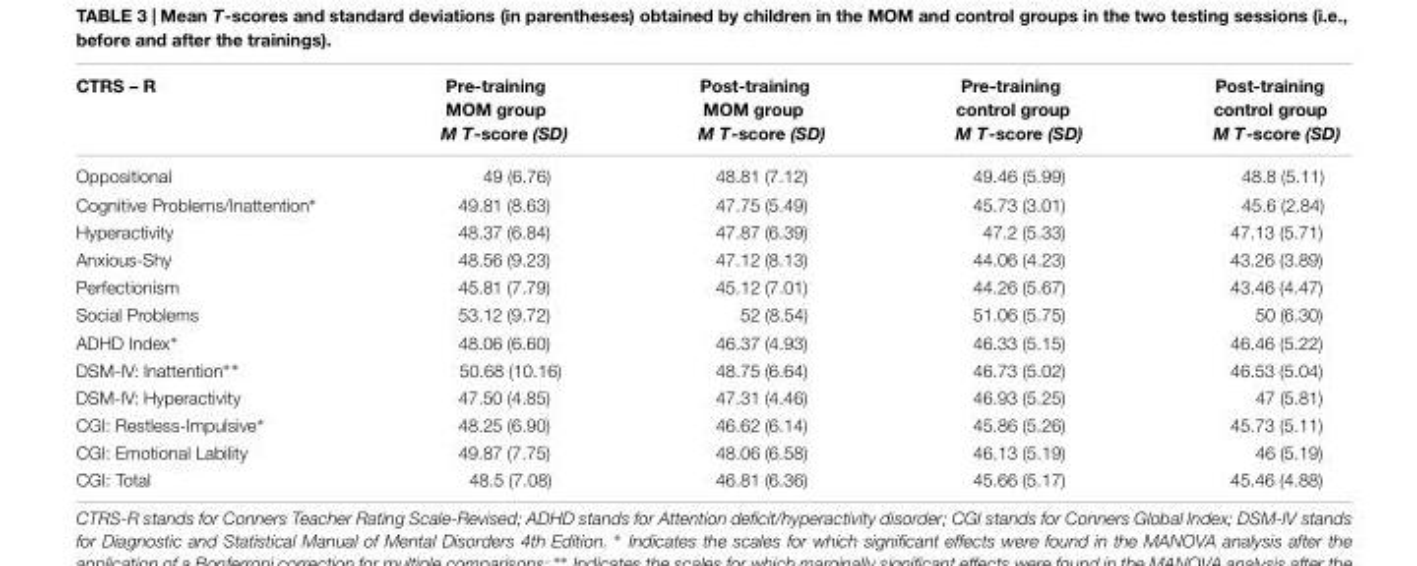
<table><thead><tr><td>CTRS – R</td><td>Pre-training MOM group M T-score (SD)</td><td>Post-training MOM group M T-score (SD)</td><td>Pre-training control group M T-score (SD)</td><td>Post-training control group M T-score (SD)</td></tr></thead><tbody><tr><td>Oppositional</td><td>49 (6.76)</td><td>48.81 (7.12)</td><td>49.46 (5.99)</td><td>48.8 (5.11)</td></tr><tr><td>Cognitive Problems/Inattention∗</td><td>49.81 (8.63)</td><td>47.75 (5.49)</td><td>45.73 (3.01)</td><td>45.6 (2.84)</td></tr><tr><td>Hyperactivity</td><td>48.37 (6.84)</td><td>47.87 (6.39)</td><td>47.2 (5.33)</td><td>47.13 (5.71)</td></tr><tr><td>Anxious-Shy</td><td>48.56 (9.23)</td><td>47.12 (8.13)</td><td>44.06 (4.23)</td><td>43.26 (3.89)</td></tr><tr><td>Perfectionism</td><td>45.81 (7.79)</td><td>45.12 (7.01)</td><td>44.26 (5.67)</td><td>43.46 (4.47)</td></tr><tr><td>Social Problems</td><td>53.12 (9.72)</td><td>52 (8.54)</td><td>51.06 (5.75)</td><td>50 (6.30)</td></tr><tr><td>ADHD Index∗</td><td>48.06 (6.60)</td><td>46.37 (4.93)</td><td>46.33 (5.15)</td><td>46.46 (5.22)</td></tr><tr><td>DSM-IV: Inattention∗∗</td><td>50.68 (10.16)</td><td>48.75 (6.64)</td><td>46.73 (5.02)</td><td>46.53 (5.04)</td></tr><tr><td>DSM-IV: Hyperactivity</td><td>47.50 (4.85)</td><td>47.31 (4.46)</td><td>46.93 (5.25)</td><td>47 (5.81)</td></tr><tr><td>CGI: Restless-Impulsive∗</td><td>48.25 (6.90)</td><td>46.62 (6.14)</td><td>45.86 (5.26)</td><td>45.73 (5.11)</td></tr><tr><td>CGI: Emotional Lability</td><td>49.87 (7.75)</td><td>48.06 (6.58)</td><td>46.13 (5.19)</td><td>46 (5.19)</td></tr><tr><td>CGI: Total</td><td>48.5 (7.08)</td><td>46.81 (6.36)</td><td>45.66 (5.17)</td><td>45.46 (4.88)</td></tr></tbody></table>